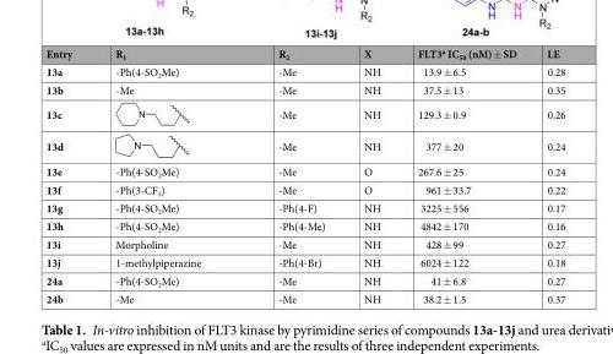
<table><thead><tr><td>Entry</td><td>R<sub>1</sub></td><td>R<sub>2</sub></td><td>X</td><td>FLT3<sup>a</sup> IC<sub>50</sub> (nM) ± SD</td><td>LE</td></tr></thead><tbody><tr><td>13a</td><td>-Ph(4-SO<sub>2</sub>Me)</td><td>-Me</td><td>NH</td><td>13.9 ± 6.5</td><td>0.28</td></tr><tr><td>13b</td><td>-Me</td><td>-Me</td><td>NH</td><td>37.5 ± 13</td><td>0.35</td></tr><tr><td>13c</td><td>N</td><td>-Me</td><td>NH</td><td>129.3 ± 0.9</td><td>0.26</td></tr><tr><td>13d</td><td>N</td><td>-Me</td><td>NH</td><td>377 ± 20</td><td>0.24</td></tr><tr><td>13e</td><td>-Ph(4-SO<sub>2</sub>Me)</td><td>-Me</td><td>O</td><td>267.6 ± 25</td><td>0.24</td></tr><tr><td>13f</td><td>-Ph(3-CF<sub>3</sub>)</td><td>-Me</td><td>O</td><td>961 ± 33.7</td><td>0.22</td></tr><tr><td>13g</td><td>-Ph(4-SO<sub>2</sub>Me)</td><td>-Ph(4-F)</td><td>NH</td><td>3225 ± 556</td><td>0.17</td></tr><tr><td>13h</td><td>-Ph(4-SO<sub>2</sub>Me)</td><td>-Ph(4-Me)</td><td>NH</td><td>4842 ± 170</td><td>0.16</td></tr><tr><td>13i</td><td>Morpholine</td><td>-Me</td><td>NH</td><td>428 ± 99</td><td>0.27</td></tr><tr><td>13j</td><td>1-methylpiperazine</td><td>-Ph(4-Br)</td><td>NH</td><td>6024 ± 122</td><td>0.18</td></tr><tr><td>24a</td><td>-Ph(4-SO<sub>2</sub>Me)</td><td>-Me</td><td>NH</td><td>41 ± 6.8</td><td>0.27</td></tr><tr><td>24b</td><td>-Me</td><td>-Me</td><td>NH</td><td>38.2 ± 1.5</td><td>0.37</td></tr></tbody></table>